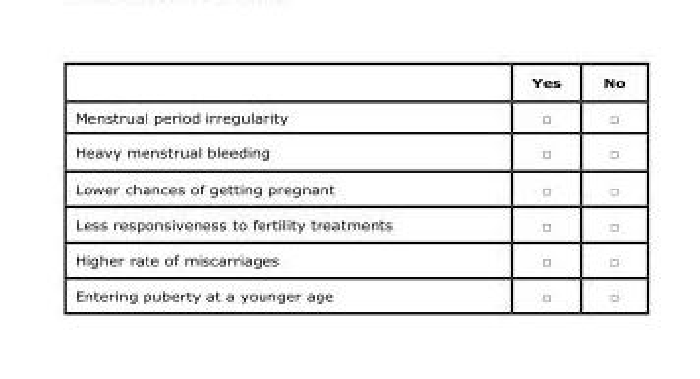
<table><thead><tr><td></td><td>Yes</td><td>No</td></tr></thead><tbody><tr><td>Menstrual period irregularity</td><td>□</td><td>□</td></tr><tr><td>Heavy menstrual bleeding</td><td>□</td><td>□</td></tr><tr><td>Lower chances of getting pregnant</td><td>□</td><td>□</td></tr><tr><td>Less responsiveness to fertility treatments</td><td>□</td><td>□</td></tr><tr><td>Higher rate of miscarriages</td><td>□</td><td>□</td></tr><tr><td>Entering puberty at a younger age</td><td>□</td><td>□</td></tr></tbody></table>